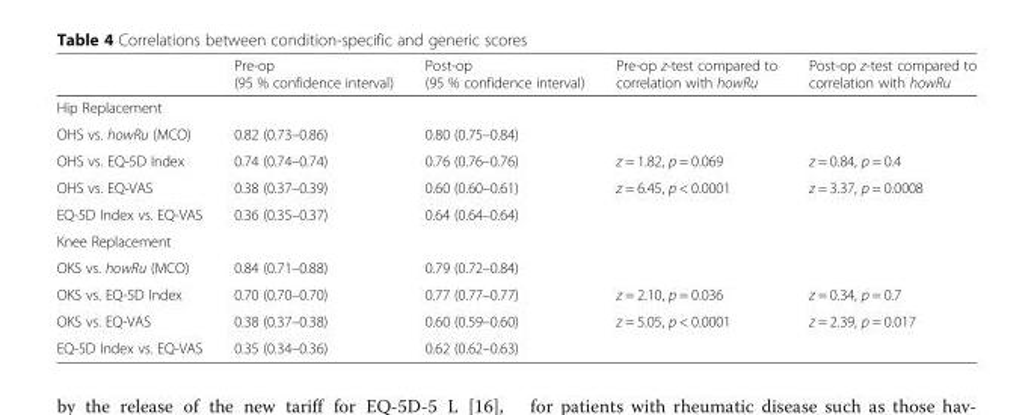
<table><thead><tr><td></td><td>Pre-op (95 % confidence interval)</td><td>Post-op (95 % confidence interval)</td><td>Pre-op z-test compared to correlation with howRu</td><td>Post-op z-test compared to correlation with howRu</td></tr></thead><tbody><tr><td colspan="5">Hip Replacement</td></tr><tr><td>OHS vs. howRu (MCO)</td><td>0.82 (0.73–0.86)</td><td>0.80 (0.75–0.84)</td><td></td><td></td></tr><tr><td>OHS vs. EQ-5D Index</td><td>0.74 (0.74–0.74)</td><td>0.76 (0.76–0.76)</td><td>z = 1.82, p = 0.069</td><td>z = 0.84, p = 0.4</td></tr><tr><td>OHS vs. EQ-VAS</td><td>0.38 (0.37–0.39)</td><td>0.60 (0.60–0.61)</td><td>z = 6.45, p &lt; 0.0001</td><td>z = 3.37, p = 0.0008</td></tr><tr><td>EQ-5D Index vs. EQ-VAS</td><td>0.36 (0.35–0.37)</td><td>0.64 (0.64–0.64)</td><td></td><td></td></tr><tr><td colspan="5">Knee Replacement</td></tr><tr><td>OKS vs. howRu (MCO)</td><td>0.84 (0.71–0.88)</td><td>0.79 (0.72–0.84)</td><td></td><td></td></tr><tr><td>OKS vs. EQ-5D Index</td><td>0.70 (0.70–0.70)</td><td>0.77 (0.77–0.77)</td><td>z = 2.10, p = 0.036</td><td>z = 0.34, p = 0.7</td></tr><tr><td>OKS vs. EQ-VAS</td><td>0.38 (0.37–0.38)</td><td>0.60 (0.59–0.60)</td><td>z = 5.05, p &lt; 0.0001</td><td>z = 2.39, p = 0.017</td></tr><tr><td>EQ-5D Index vs. EQ-VAS</td><td>0.35 (0.34–0.36)</td><td>0.62 (0.62–0.63)</td><td></td><td></td></tr></tbody></table>